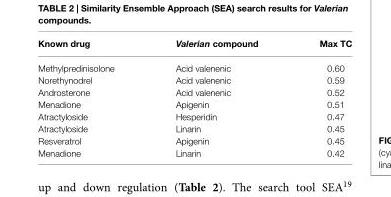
<table><thead><tr><td>Known drug</td><td>Valerian compound</td><td>Max TC</td></tr></thead><tbody><tr><td>Methylpredinisolone</td><td>Acid valenenic</td><td>0.60</td></tr><tr><td>Norethynodrel</td><td>Acid valenenic</td><td>0.59</td></tr><tr><td>Androsterone</td><td>Acid valenenic</td><td>0.52</td></tr><tr><td>Menadione</td><td>Apigenin</td><td>0.51</td></tr><tr><td>Atractyloside</td><td>Hesperidin</td><td>0.47</td></tr><tr><td>Atractyloside</td><td>Linarin</td><td>0.45</td></tr><tr><td>Resveratrol</td><td>Apigenin</td><td>0.45</td></tr><tr><td>Menadione</td><td>Linarin</td><td>0.42</td></tr></tbody></table>